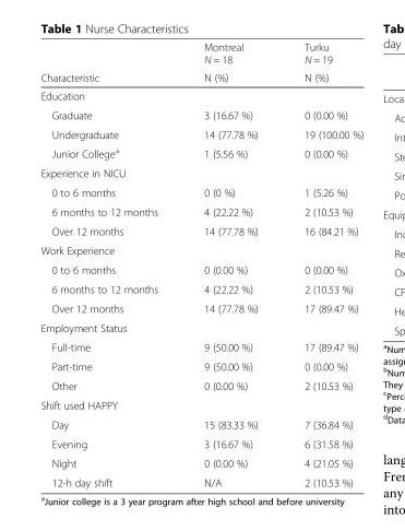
<table><thead><tr><td rowspan="2">Characteristic</td><td rowspan="2">Montreal N = 18 N (%)</td><td rowspan="2">Turku N = 19 N (%)</td></tr><tr></tr></thead><tbody><tr><td colspan="3">Education</td></tr><tr><td>Graduate</td><td>3 (16.67 %)</td><td>0 (0.00 %)</td></tr><tr><td>Undergraduate</td><td>14 (77.78 %)</td><td>19 (100.00 %)</td></tr><tr><td>Junior College<sup>a</sup></td><td>1 (5.56 %)</td><td>0 (0.00 %)</td></tr><tr><td colspan="3">Experience in NICU</td></tr><tr><td>0 to 6 months</td><td>0 (0 %)</td><td>1 (5.26 %)</td></tr><tr><td>6 months to 12 months</td><td>4 (22.22 %)</td><td>2 (10.53 %)</td></tr><tr><td>Over 12 months</td><td>14 (77.78 %)</td><td>16 (84.21 %)</td></tr><tr><td colspan="3">Work Experience</td></tr><tr><td>0 to 6 months</td><td>0 (0.00 %)</td><td>0 (0.00 %)</td></tr><tr><td>6 months to 12 months</td><td>4 (22.22 %)</td><td>2 (10.53 %)</td></tr><tr><td>Over 12 months</td><td>14 (77.78 %)</td><td>17 (89.47 %)</td></tr><tr><td colspan="3">Employment Status</td></tr><tr><td>Full-time</td><td>9 (50.00 %)</td><td>17 (89.47 %)</td></tr><tr><td>Part-time</td><td>9 (50.00 %)</td><td>0 (0.00 %)</td></tr><tr><td>Other</td><td>0 (0.00 %)</td><td>2 (10.53 %)</td></tr><tr><td colspan="3">Shift used HAPPY</td></tr><tr><td>Day</td><td>15 (83.33 %)</td><td>7 (36.84 %)</td></tr><tr><td>Evening</td><td>3 (16.67 %)</td><td>6 (31.58 %)</td></tr><tr><td>Night</td><td>0 (0.00 %)</td><td>4 (21.05 %)</td></tr><tr><td>12-h day shift</td><td>N/A</td><td>2 (10.53 %)</td></tr></tbody></table>